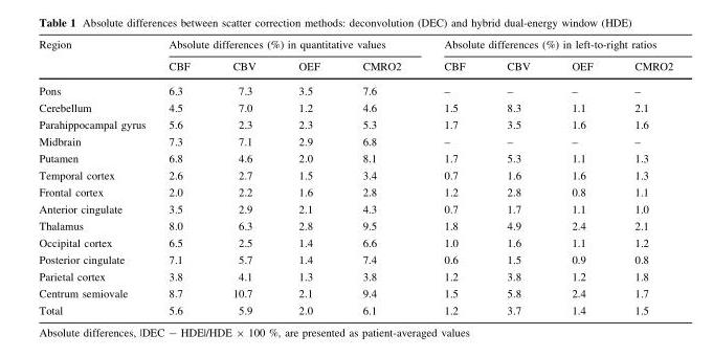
<table><thead><tr><td rowspan="2">Region</td><td colspan="4">Absolute differences (%) in quantitative values</td><td colspan="4">Absolute differences (%) in left-to-right ratios</td></tr><tr><td>CBF</td><td>CBV</td><td>OEF</td><td>CMRO2</td><td>CBF</td><td>CBV</td><td>OEF</td><td>CMRO2</td></tr></thead><tbody><tr><td>Pons</td><td>6.3</td><td>7.3</td><td>3.5</td><td>7.6</td><td>–</td><td>–</td><td>–</td><td>–</td></tr><tr><td>Cerebellum</td><td>4.5</td><td>7.0</td><td>1.2</td><td>4.6</td><td>1.5</td><td>8.3</td><td>1.1</td><td>2.1</td></tr><tr><td>Parahippocampal gyrus</td><td>5.6</td><td>2.3</td><td>2.3</td><td>5.3</td><td>1.7</td><td>3.5</td><td>1.6</td><td>1.6</td></tr><tr><td>Midbrain</td><td>7.3</td><td>7.1</td><td>2.9</td><td>6.8</td><td>–</td><td>–</td><td>–</td><td>–</td></tr><tr><td>Putamen</td><td>6.8</td><td>4.6</td><td>2.0</td><td>8.1</td><td>1.7</td><td>5.3</td><td>1.1</td><td>1.3</td></tr><tr><td>Temporal cortex</td><td>2.6</td><td>2.7</td><td>1.5</td><td>3.4</td><td>0.7</td><td>1.6</td><td>1.6</td><td>1.3</td></tr><tr><td>Frontal cortex</td><td>2.0</td><td>2.2</td><td>1.6</td><td>2.8</td><td>1.2</td><td>2.8</td><td>0.8</td><td>1.1</td></tr><tr><td>Anterior cingulate</td><td>3.5</td><td>2.9</td><td>2.1</td><td>4.3</td><td>0.7</td><td>1.7</td><td>1.1</td><td>1.0</td></tr><tr><td>Thalamus</td><td>8.0</td><td>6.3</td><td>2.8</td><td>9.5</td><td>1.8</td><td>4.9</td><td>2.4</td><td>2.1</td></tr><tr><td>Occipital cortex</td><td>6.5</td><td>2.5</td><td>1.4</td><td>6.6</td><td>1.0</td><td>1.6</td><td>1.1</td><td>1.2</td></tr><tr><td>Posterior cingulate</td><td>7.1</td><td>5.7</td><td>1.4</td><td>7.4</td><td>0.6</td><td>1.5</td><td>0.9</td><td>0.8</td></tr><tr><td>Parietal cortex</td><td>3.8</td><td>4.1</td><td>1.3</td><td>3.8</td><td>1.2</td><td>3.8</td><td>1.2</td><td>1.8</td></tr><tr><td>Centrum semiovale</td><td>8.7</td><td>10.7</td><td>2.1</td><td>9.4</td><td>1.5</td><td>5.8</td><td>2.4</td><td>1.7</td></tr><tr><td>Total</td><td>5.6</td><td>5.9</td><td>2.0</td><td>6.1</td><td>1.2</td><td>3.7</td><td>1.4</td><td>1.5</td></tr></tbody></table>